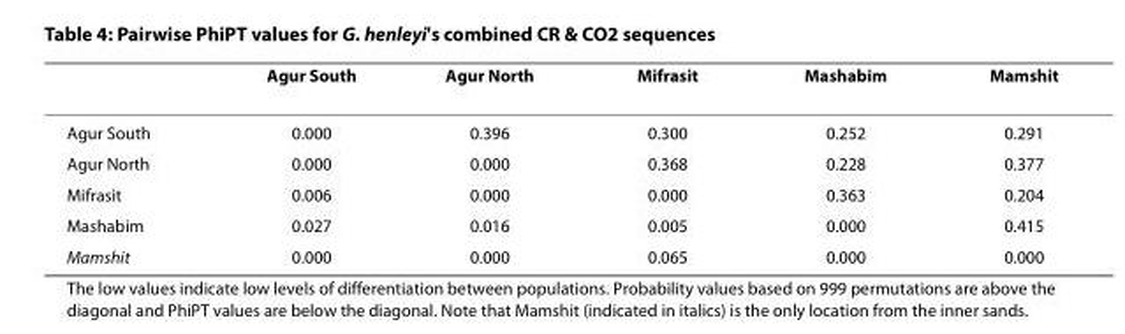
<table><thead><tr><td></td><td>Agur South</td><td>Agur North</td><td>Mifrasit</td><td>Mashabim</td><td>Mamshit</td></tr></thead><tbody><tr><td>Agur South</td><td>0.000</td><td>0.396</td><td>0.300</td><td>0.252</td><td>0.291</td></tr><tr><td>Agur North</td><td>0.000</td><td>0.000</td><td>0.368</td><td>0.228</td><td>0.377</td></tr><tr><td>Mifrasit</td><td>0.006</td><td>0.000</td><td>0.000</td><td>0.363</td><td>0.204</td></tr><tr><td>Mashabim</td><td>0.027</td><td>0.016</td><td>0.005</td><td>0.000</td><td>0.415</td></tr><tr><td>Mamshit</td><td>0.000</td><td>0.000</td><td>0.065</td><td>0.000</td><td>0.000</td></tr></tbody></table>